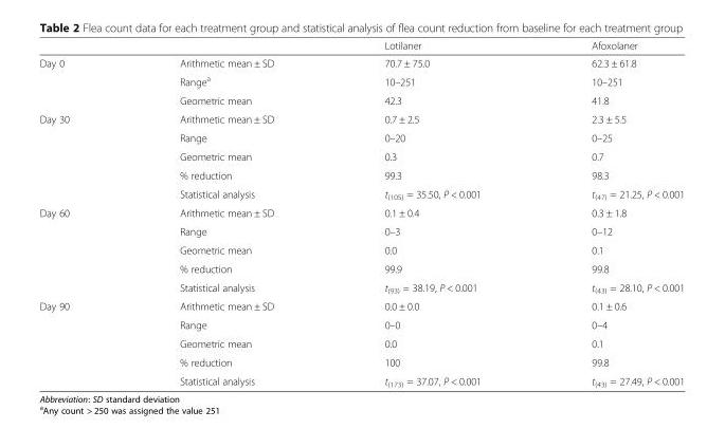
<table><thead><tr><td></td><td></td><td>Lotilaner</td><td>Afoxolaner</td></tr></thead><tbody><tr><td rowspan="3">Day 0</td><td>Arithmetic mean ± SD</td><td>70.7 ± 75.0</td><td>62.3 ± 61.8</td></tr><tr><td>Range<sup>a</sup></td><td>10–251</td><td>10–251</td></tr><tr><td>Geometric mean</td><td>42.3</td><td>41.8</td></tr><tr><td rowspan="5">Day 30</td><td>Arithmetic mean ± SD</td><td>0.7 ± 2.5</td><td>2.3 ± 5.5</td></tr><tr><td>Range</td><td>0–20</td><td>0–25</td></tr><tr><td>Geometric mean</td><td>0.3</td><td>0.7</td></tr><tr><td>% reduction</td><td>99.3</td><td>98.3</td></tr><tr><td>Statistical analysis</td><td>t<sub>(105)</sub> = 35.50, P &lt; 0.001</td><td>t<sub>(47)</sub> = 21.25, P &lt; 0.001</td></tr><tr><td rowspan="5">Day 60</td><td>Arithmetic mean ± SD</td><td>0.1 ± 0.4</td><td>0.3 ± 1.8</td></tr><tr><td>Range</td><td>0–3</td><td>0–12</td></tr><tr><td>Geometric mean</td><td>0.0</td><td>0.1</td></tr><tr><td>% reduction</td><td>99.9</td><td>99.8</td></tr><tr><td>Statistical analysis</td><td>t<sub>(93)</sub> = 38.19, P &lt; 0.001</td><td>t<sub>(43)</sub> = 28.10, P &lt; 0.001</td></tr><tr><td rowspan="5">Day 90</td><td>Arithmetic mean ± SD</td><td>0.0 ± 0.0</td><td>0.1 ± 0.6</td></tr><tr><td>Range</td><td>0–0</td><td>0–4</td></tr><tr><td>Geometric mean</td><td>0.0</td><td>0.1</td></tr><tr><td>% reduction</td><td>100</td><td>99.8</td></tr><tr><td>Statistical analysis</td><td>t<sub>(173)</sub> = 37.07, P &lt; 0.001</td><td>t<sub>(43)</sub> = 27.49, P &lt; 0.001</td></tr></tbody></table>